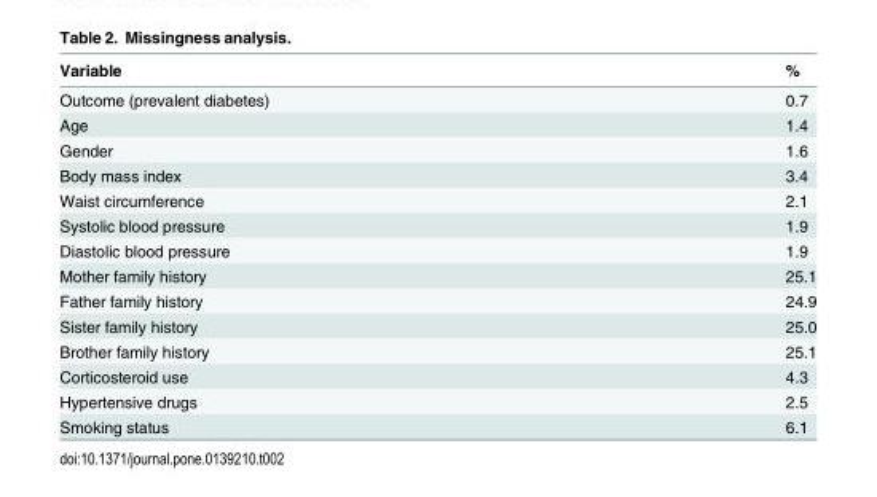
<table><thead><tr><td>Variable</td><td>%</td></tr></thead><tbody><tr><td>Outcome (prevalent diabetes)</td><td>0.7</td></tr><tr><td>Age</td><td>1.4</td></tr><tr><td>Gender</td><td>1.6</td></tr><tr><td>Body mass index</td><td>3.4</td></tr><tr><td>Waist circumference</td><td>2.1</td></tr><tr><td>Systolic blood pressure</td><td>1.9</td></tr><tr><td>Diastolic blood pressure</td><td>1.9</td></tr><tr><td>Mother family history</td><td>25.1</td></tr><tr><td>Father family history</td><td>24.9</td></tr><tr><td>Sister family history</td><td>25.0</td></tr><tr><td>Brother family history</td><td>25.1</td></tr><tr><td>Corticosteroid use</td><td>4.3</td></tr><tr><td>Hypertensive drugs</td><td>2.5</td></tr><tr><td>Smoking status</td><td>6.1</td></tr></tbody></table>